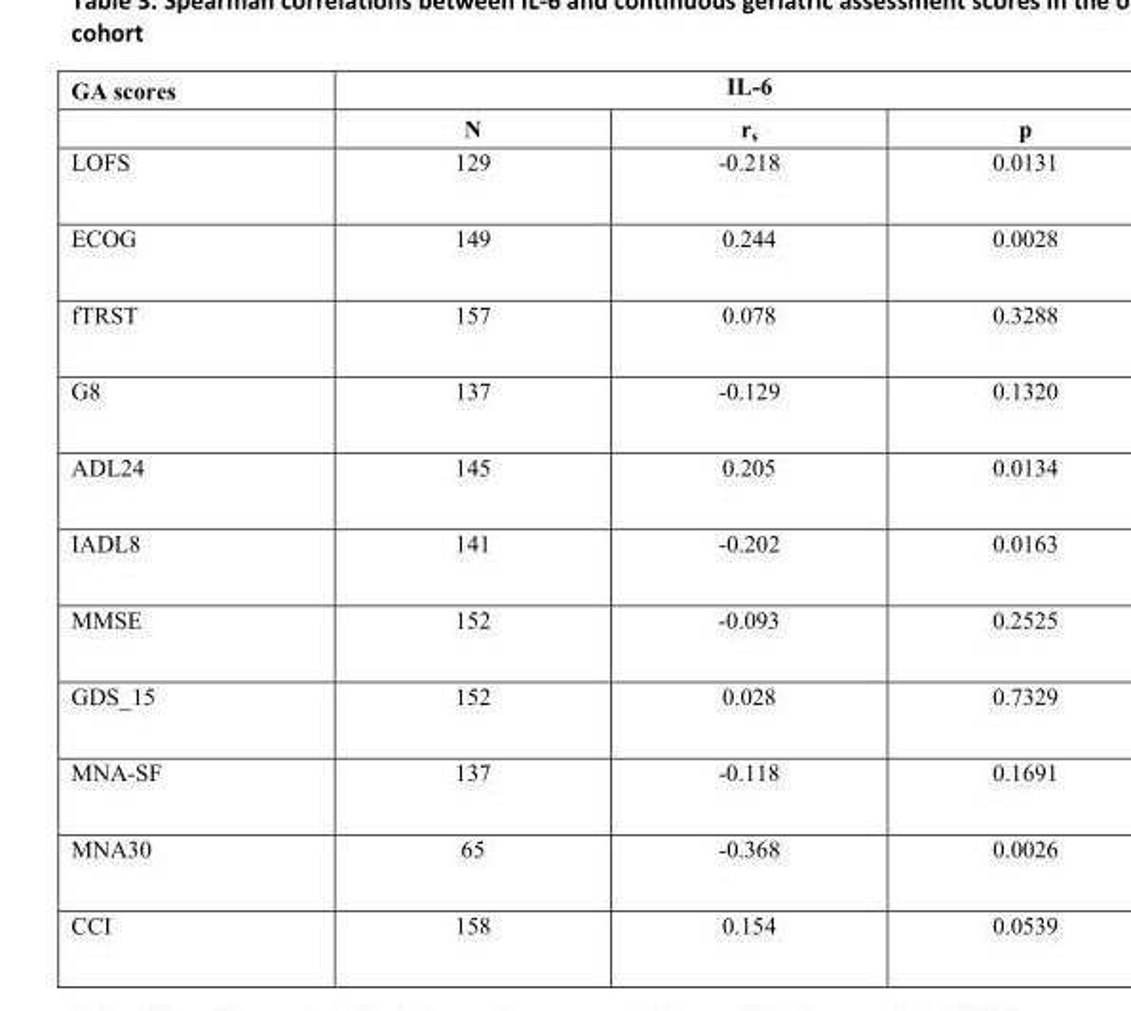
<table><thead><tr><td rowspan="2">GA scores</td><td colspan="3">IL-6</td></tr><tr><td>N</td><td>r<sub>s</sub></td><td>p</td></tr></thead><tbody><tr><td>LOFS</td><td>129</td><td>-0.218</td><td>0.0131</td></tr><tr><td>ECOG</td><td>149</td><td>0.244</td><td>0.0028</td></tr><tr><td>fTRST</td><td>157</td><td>0.078</td><td>0.3288</td></tr><tr><td>G8</td><td>137</td><td>-0.129</td><td>0.1320</td></tr><tr><td>ADL24</td><td>145</td><td>0.205</td><td>0.0134</td></tr><tr><td>IADL8</td><td>141</td><td>-0.202</td><td>0.0163</td></tr><tr><td>MMSE</td><td>152</td><td>-0.093</td><td>0.2525</td></tr><tr><td>GDS_15</td><td>152</td><td>0.028</td><td>0.7329</td></tr><tr><td>MNA-SF</td><td>137</td><td>-0.118</td><td>0.1691</td></tr><tr><td>MNA30</td><td>65</td><td>-0.368</td><td>0.0026</td></tr><tr><td>CCI</td><td>158</td><td>0.154</td><td>0.0539</td></tr></tbody></table>